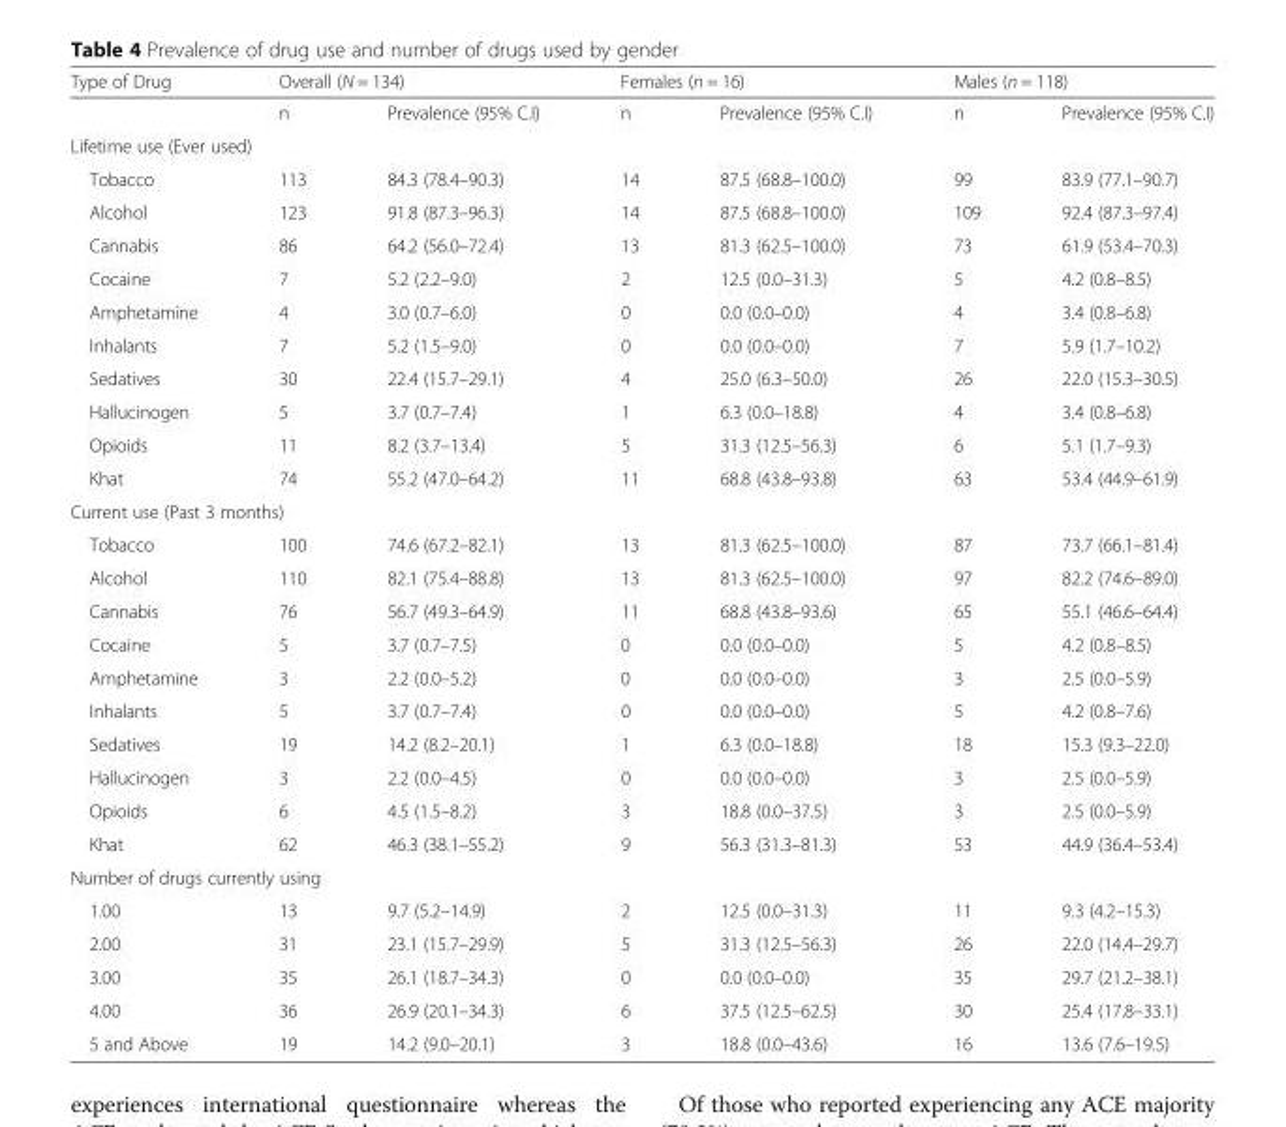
<table><thead><tr><td rowspan="2">Type of Drug</td><td colspan="2">Overall (N = 134)</td><td colspan="2">Females (n = 16)</td><td colspan="2">Males (n = 118)</td></tr><tr><td>n</td><td>Prevalence (95% C.I)</td><td>n</td><td>Prevalence (95% C.I)</td><td>n</td><td>Prevalence (95% C.I)</td></tr></thead><tbody><tr><td colspan="7">Lifetime use (Ever used)</td></tr><tr><td>Tobacco</td><td>113</td><td>84.3 (78.4–90.3)</td><td>14</td><td>87.5 (68.8–100.0)</td><td>99</td><td>83.9 (77.1–90.7)</td></tr><tr><td>Alcohol</td><td>123</td><td>91.8 (87.3–96.3)</td><td>14</td><td>87.5 (68.8–100.0)</td><td>109</td><td>92.4 (87.3–97.4)</td></tr><tr><td>Cannabis</td><td>86</td><td>64.2 (56.0–72.4)</td><td>13</td><td>81.3 (62.5–100.0)</td><td>73</td><td>61.9 (53.4–70.3)</td></tr><tr><td>Cocaine</td><td>7</td><td>5.2 (2.2–9.0)</td><td>2</td><td>12.5 (0.0–31.3)</td><td>5</td><td>4.2 (0.8–8.5)</td></tr><tr><td>Amphetamine</td><td>4</td><td>3.0 (0.7–6.0)</td><td>0</td><td>0.0 (0.0–0.0)</td><td>4</td><td>3.4 (0.8–6.8)</td></tr><tr><td>Inhalants</td><td>7</td><td>5.2 (1.5–9.0)</td><td>0</td><td>0.0 (0.0–0.0)</td><td>7</td><td>5.9 (1.7–10.2)</td></tr><tr><td>Sedatives</td><td>30</td><td>22.4 (15.7–29.1)</td><td>4</td><td>25.0 (6.3–50.0)</td><td>26</td><td>22.0 (15.3–30.5)</td></tr><tr><td>Hallucinogen</td><td>5</td><td>3.7 (0.7–7.4)</td><td>1</td><td>6.3 (0.0–18.8)</td><td>4</td><td>3.4 (0.8–6.8)</td></tr><tr><td>Opioids</td><td>11</td><td>8.2 (3.7–13.4)</td><td>5</td><td>31.3 (12.5–56.3)</td><td>6</td><td>5.1 (1.7–9.3)</td></tr><tr><td>Khat</td><td>74</td><td>55.2 (47.0–64.2)</td><td>11</td><td>68.8 (43.8–93.8)</td><td>63</td><td>53.4 (44.9–61.9)</td></tr><tr><td colspan="7">Current use (Past 3 months)</td></tr><tr><td>Tobacco</td><td>100</td><td>74.6 (67.2–82.1)</td><td>13</td><td>81.3 (62.5–100.0)</td><td>87</td><td>73.7 (66.1–81.4)</td></tr><tr><td>Alcohol</td><td>110</td><td>82.1 (75.4–88.8)</td><td>13</td><td>81.3 (62.5–100.0)</td><td>97</td><td>82.2 (74.6–89.0)</td></tr><tr><td>Cannabis</td><td>76</td><td>56.7 (49.3–64.9)</td><td>11</td><td>68.8 (43.8–93.6)</td><td>65</td><td>55.1 (46.6–64.4)</td></tr><tr><td>Cocaine</td><td>5</td><td>3.7 (0.7–7.5)</td><td>0</td><td>0.0 (0.0–0.0)</td><td>5</td><td>4.2 (0.8–8.5)</td></tr><tr><td>Amphetamine</td><td>3</td><td>2.2 (0.0–5.2)</td><td>0</td><td>0.0 (0.0–0.0)</td><td>3</td><td>2.5 (0.0–5.9)</td></tr><tr><td>Inhalants</td><td>5</td><td>3.7 (0.7–7.4)</td><td>0</td><td>0.0 (0.0–0.0)</td><td>5</td><td>4.2 (0.8–7.6)</td></tr><tr><td>Sedatives</td><td>19</td><td>14.2 (8.2–20.1)</td><td>1</td><td>6.3 (0.0–18.8)</td><td>18</td><td>15.3 (9.3–22.0)</td></tr><tr><td>Hallucinogen</td><td>3</td><td>2.2 (0.0–4.5)</td><td>0</td><td>0.0 (0.0–0.0)</td><td>3</td><td>2.5 (0.0–5.9)</td></tr><tr><td>Opioids</td><td>6</td><td>4.5 (1.5–8.2)</td><td>3</td><td>18.8 (0.0–37.5)</td><td>3</td><td>2.5 (0.0–5.9)</td></tr><tr><td>Khat</td><td>62</td><td>46.3 (38.1–55.2)</td><td>9</td><td>56.3 (31.3–81.3)</td><td>53</td><td>44.9 (36.4–53.4)</td></tr><tr><td colspan="7">Number of drugs currently using</td></tr><tr><td>1.00</td><td>13</td><td>9.7 (5.2–14.9)</td><td>2</td><td>12.5 (0.0–31.3)</td><td>11</td><td>9.3 (4.2–15.3)</td></tr><tr><td>2.00</td><td>31</td><td>23.1 (15.7–29.9)</td><td>5</td><td>31.3 (12.5–56.3)</td><td>26</td><td>22.0 (14.4–29.7)</td></tr><tr><td>3.00</td><td>35</td><td>26.1 (18.7–34.3)</td><td>0</td><td>0.0 (0.0–0.0)</td><td>35</td><td>29.7 (21.2–38.1)</td></tr><tr><td>4.00</td><td>36</td><td>26.9 (20.1–34.3)</td><td>6</td><td>37.5 (12.5–62.5)</td><td>30</td><td>25.4 (17.8–33.1)</td></tr><tr><td>5 and Above</td><td>19</td><td>14.2 (9.0–20.1)</td><td>3</td><td>18.8 (0.0–43.6)</td><td>16</td><td>13.6 (7.6–19.5)</td></tr></tbody></table>